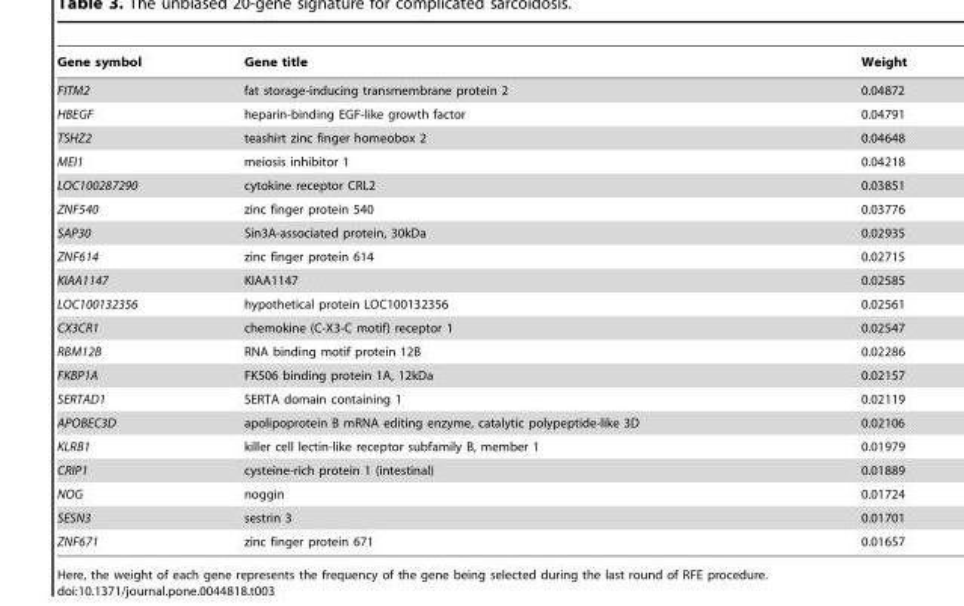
<table><thead><tr><td>Gene symbol</td><td>Gene title</td><td>Weight</td></tr></thead><tbody><tr><td>FITM2</td><td>fat storage-inducing transmembrane protein 2</td><td>0.04872</td></tr><tr><td>HBEGF</td><td>heparin-binding EGF-like growth factor</td><td>0.04791</td></tr><tr><td>TSHZ2</td><td>teashirt zinc finger homeobox 2</td><td>0.04648</td></tr><tr><td>MEI1</td><td>meiosis inhibitor 1</td><td>0.04218</td></tr><tr><td>LOC100287290</td><td>cytokine receptor CRL2</td><td>0.03851</td></tr><tr><td>ZNF540</td><td>zinc finger protein 540</td><td>0.03776</td></tr><tr><td>SAP30</td><td>Sin3A-associated protein, 30kDa</td><td>0.02935</td></tr><tr><td>ZNF614</td><td>zinc finger protein 614</td><td>0.02715</td></tr><tr><td>KIAA1147</td><td>KIAA1147</td><td>0.02585</td></tr><tr><td>LOC100132356</td><td>hypothetical protein LOC100132356</td><td>0.02561</td></tr><tr><td>CX3CR1</td><td>chemokine (C-X3-C motif) receptor 1</td><td>0.02547</td></tr><tr><td>RBM12B</td><td>RNA binding motif protein 12B</td><td>0.02286</td></tr><tr><td>FKBP1A</td><td>FK506 binding protein 1A, 12kDa</td><td>0.02157</td></tr><tr><td>SERTAD1</td><td>SERTA domain containing 1</td><td>0.02119</td></tr><tr><td>APOBEC3D</td><td>apolipoprotein B mRNA editing enzyme, catalytic polypeptide-like 3D</td><td>0.02106</td></tr><tr><td>KLRB1</td><td>killer cell lectin-like receptor subfamily B, member 1</td><td>0.01979</td></tr><tr><td>CRIP1</td><td>cysteine-rich protein 1 (intestinal)</td><td>0.01889</td></tr><tr><td>NOG</td><td>noggin</td><td>0.01724</td></tr><tr><td>SESN3</td><td>sestrin 3</td><td>0.01701</td></tr><tr><td>ZNF671</td><td>zinc finger protein 671</td><td>0.01657</td></tr></tbody></table>